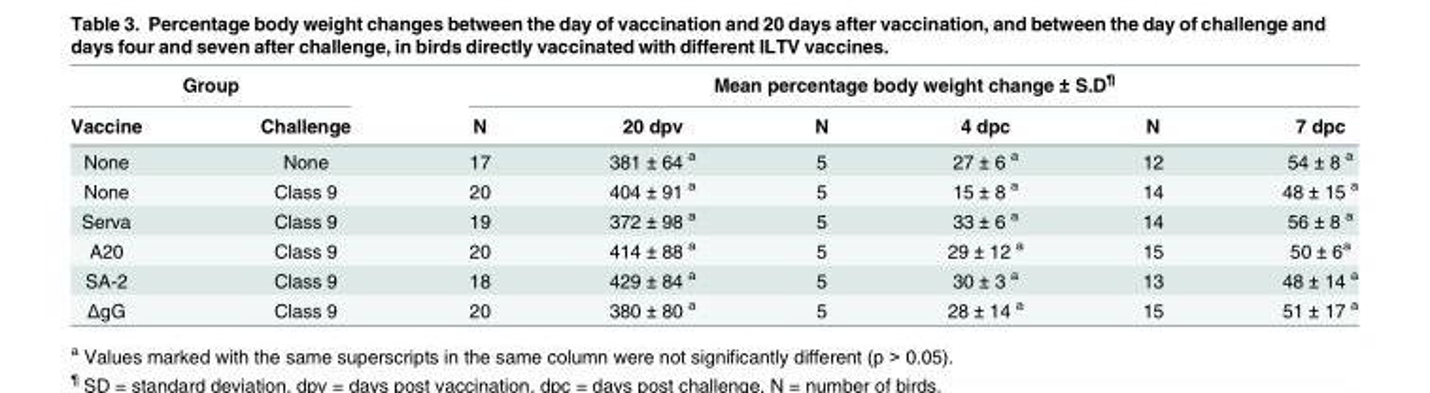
<table><thead><tr><td colspan="2">Group</td><td colspan="6">Mean percentage body weight change ± S.D<sup>¶</sup></td></tr><tr><td>Vaccine</td><td>Challenge</td><td>N</td><td>20 dpv</td><td>N</td><td>4 dpc</td><td>N</td><td>7 dpc</td></tr></thead><tbody><tr><td>None</td><td>None</td><td>17</td><td>381 ± 64 <sup>a</sup></td><td>5</td><td>27 ± 6 <sup>a</sup></td><td>12</td><td>54 ± 8 <sup>a</sup></td></tr><tr><td>None</td><td>Class 9</td><td>20</td><td>404 ± 91 <sup>a</sup></td><td>5</td><td>15 ± 8 <sup>a</sup></td><td>14</td><td>48 ± 15 <sup>a</sup></td></tr><tr><td>Serva</td><td>Class 9</td><td>19</td><td>372 ± 98 <sup>a</sup></td><td>5</td><td>33 ± 6 <sup>a</sup></td><td>14</td><td>56 ± 8 <sup>a</sup></td></tr><tr><td>A20</td><td>Class 9</td><td>20</td><td>414 ± 88 <sup>a</sup></td><td>5</td><td>29 ± 12 <sup>a</sup></td><td>15</td><td>50 ± 6<sup>a</sup></td></tr><tr><td>SA-2</td><td>Class 9</td><td>18</td><td>429 ± 84 <sup>a</sup></td><td>5</td><td>30 ± 3 <sup>a</sup></td><td>13</td><td>48 ± 14 <sup>a</sup></td></tr><tr><td>ΔgG</td><td>Class 9</td><td>20</td><td>380 ± 80 <sup>a</sup></td><td>5</td><td>28 ± 14 <sup>a</sup></td><td>15</td><td>51 ± 17 <sup>a</sup></td></tr></tbody></table>